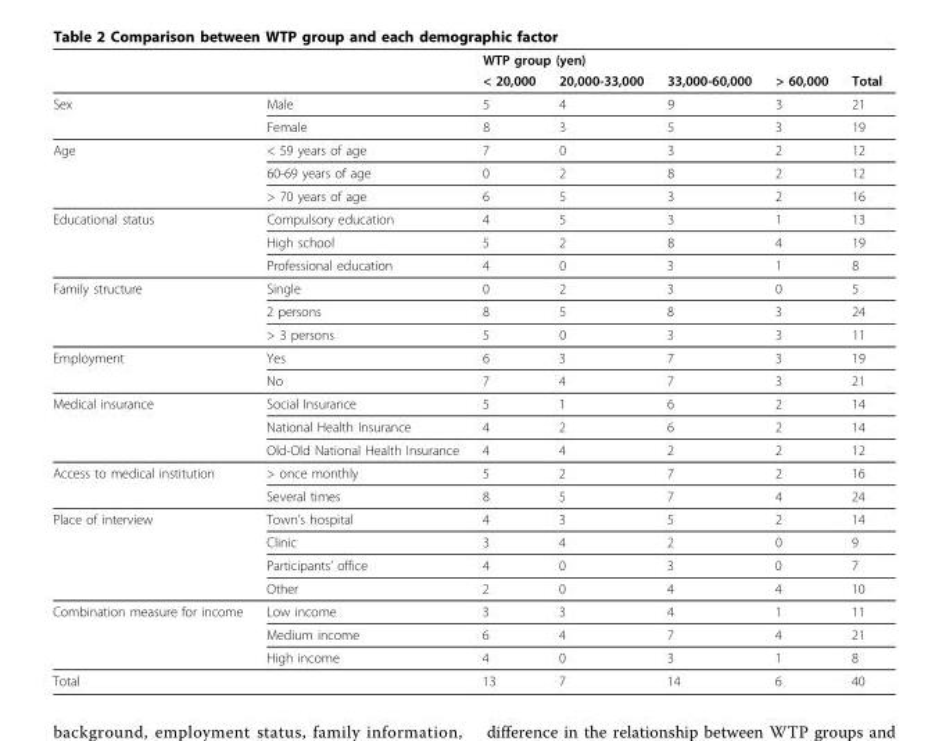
<table><thead><tr><td rowspan="2"></td><td rowspan="2"></td><td colspan="5">WTP group (yen)</td></tr><tr><td>&lt; 20,000</td><td>20,000-33,000</td><td>33,000-60,000</td><td>&gt; 60,000</td><td>Total</td></tr></thead><tbody><tr><td rowspan="2">Sex</td><td>Male</td><td>5</td><td>4</td><td>9</td><td>3</td><td>21</td></tr><tr><td>Female</td><td>8</td><td>3</td><td>5</td><td>3</td><td>19</td></tr><tr><td rowspan="3">Age</td><td>&lt; 59 years of age</td><td>7</td><td>0</td><td>3</td><td>2</td><td>12</td></tr><tr><td>60-69 years of age</td><td>0</td><td>2</td><td>8</td><td>2</td><td>12</td></tr><tr><td>&gt; 70 years of age</td><td>6</td><td>5</td><td>3</td><td>2</td><td>16</td></tr><tr><td rowspan="3">Educational status</td><td>Compulsory education</td><td>4</td><td>5</td><td>3</td><td>1</td><td>13</td></tr><tr><td>High school</td><td>5</td><td>2</td><td>8</td><td>4</td><td>19</td></tr><tr><td>Professional education</td><td>4</td><td>0</td><td>3</td><td>1</td><td>8</td></tr><tr><td rowspan="3">Family structure</td><td>Single</td><td>0</td><td>2</td><td>3</td><td>0</td><td>5</td></tr><tr><td>2 persons</td><td>8</td><td>5</td><td>8</td><td>3</td><td>24</td></tr><tr><td>&gt; 3 persons</td><td>5</td><td>0</td><td>3</td><td>3</td><td>11</td></tr><tr><td rowspan="2">Employment</td><td>Yes</td><td>6</td><td>3</td><td>7</td><td>3</td><td>19</td></tr><tr><td>No</td><td>7</td><td>4</td><td>7</td><td>3</td><td>21</td></tr><tr><td rowspan="3">Medical insurance</td><td>Social Insurance</td><td>5</td><td>1</td><td>6</td><td>2</td><td>14</td></tr><tr><td>National Health Insurance</td><td>4</td><td>2</td><td>6</td><td>2</td><td>14</td></tr><tr><td>Old-Old National Health Insurance</td><td>4</td><td>4</td><td>2</td><td>2</td><td>12</td></tr><tr><td rowspan="2">Access to medical institution</td><td>&gt; once monthly</td><td>5</td><td>2</td><td>7</td><td>2</td><td>16</td></tr><tr><td>Several times</td><td>8</td><td>5</td><td>7</td><td>4</td><td>24</td></tr><tr><td rowspan="4">Place of interview</td><td>Town’s hospital</td><td>4</td><td>3</td><td>5</td><td>2</td><td>14</td></tr><tr><td>Clinic</td><td>3</td><td>4</td><td>2</td><td>0</td><td>9</td></tr><tr><td>Participants’ office</td><td>4</td><td>0</td><td>3</td><td>0</td><td>7</td></tr><tr><td>Other</td><td>2</td><td>0</td><td>4</td><td>4</td><td>10</td></tr><tr><td rowspan="3">Combination measure for income</td><td>Low income</td><td>3</td><td>3</td><td>4</td><td>1</td><td>11</td></tr><tr><td>Medium income</td><td>6</td><td>4</td><td>7</td><td>4</td><td>21</td></tr><tr><td>High income</td><td>4</td><td>0</td><td>3</td><td>1</td><td>8</td></tr><tr><td colspan="2">Total</td><td>13</td><td>7</td><td>14</td><td>6</td><td>40</td></tr></tbody></table>